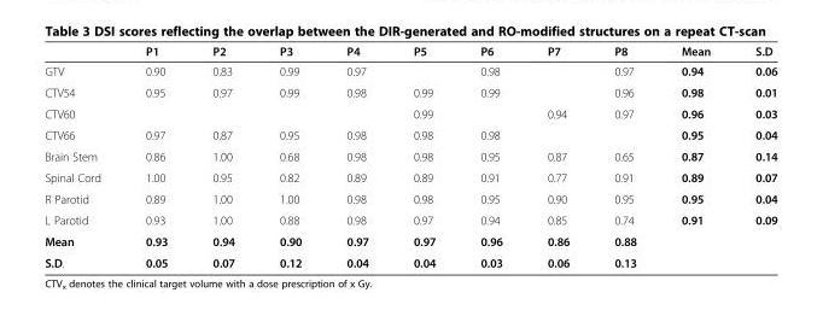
<table><thead><tr><td></td><td>P1</td><td>P2</td><td>P3</td><td>P4</td><td>P5</td><td>P6</td><td>P7</td><td>P8</td><td>Mean</td><td>S.D</td></tr></thead><tbody><tr><td>GTV</td><td>0.90</td><td>0.83</td><td>0.99</td><td>0.97</td><td></td><td>0.98</td><td></td><td>0.97</td><td>0.94</td><td>0.06</td></tr><tr><td>CTV54</td><td>0.95</td><td>0.97</td><td>0.99</td><td>0.98</td><td>0.99</td><td>0.99</td><td></td><td>0.96</td><td>0.98</td><td>0.01</td></tr><tr><td>CTV60</td><td></td><td></td><td></td><td></td><td>0.99</td><td></td><td>0.94</td><td>0.97</td><td>0.96</td><td>0.03</td></tr><tr><td>CTV66</td><td>0.97</td><td>0.87</td><td>0.95</td><td>0.98</td><td>0.98</td><td>0.98</td><td></td><td></td><td>0.95</td><td>0.04</td></tr><tr><td>Brain Stem</td><td>0.86</td><td>1.00</td><td>0.68</td><td>0.98</td><td>0.98</td><td>0.95</td><td>0.87</td><td>0.65</td><td>0.87</td><td>0.14</td></tr><tr><td>Spinal Cord</td><td>1.00</td><td>0.95</td><td>0.82</td><td>0.89</td><td>0.89</td><td>0.91</td><td>0.77</td><td>0.91</td><td>0.89</td><td>0.07</td></tr><tr><td>R Parotid</td><td>0.89</td><td>1.00</td><td>1.00</td><td>0.98</td><td>0.98</td><td>0.95</td><td>0.90</td><td>0.95</td><td>0.95</td><td>0.04</td></tr><tr><td>L Parotid</td><td>0.93</td><td>1.00</td><td>0.88</td><td>0.98</td><td>0.97</td><td>0.94</td><td>0.85</td><td>0.74</td><td>0.91</td><td>0.09</td></tr><tr><td>Mean</td><td>0.93</td><td>0.94</td><td>0.90</td><td>0.97</td><td>0.97</td><td>0.96</td><td>0.86</td><td>0.88</td><td></td><td></td></tr><tr><td>S.D.</td><td>0.05</td><td>0.07</td><td>0.12</td><td>0.04</td><td>0.04</td><td>0.03</td><td>0.06</td><td>0.13</td><td></td><td></td></tr></tbody></table>